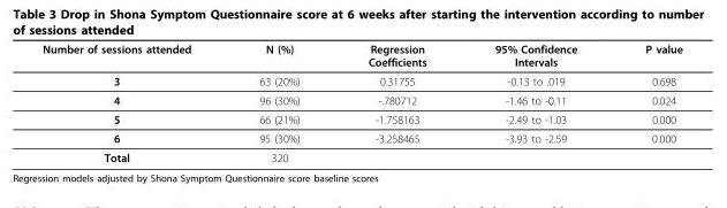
<table><thead><tr><td>Number of sessions attended</td><td>N (%)</td><td>Regression Coefficients</td><td>95% Confidence Intervals</td><td>P value</td></tr></thead><tbody><tr><td>3</td><td>63 (20%)</td><td>0.31755</td><td>-0.13 to .019</td><td>0.698</td></tr><tr><td>4</td><td>96 (30%)</td><td>-.780712</td><td>-1.46 to -0.11</td><td>0.024</td></tr><tr><td>5</td><td>66 (21%)</td><td>-1.758163</td><td>-2.49 to -1.03</td><td>0.000</td></tr><tr><td>6</td><td>95 (30%)</td><td>-3.258465</td><td>-3.93 to -2.59</td><td>0.000</td></tr><tr><td>Total</td><td>320</td><td></td><td></td><td></td></tr></tbody></table>